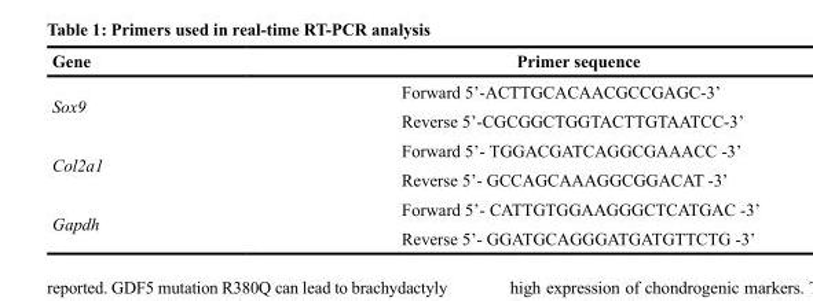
<table><thead><tr><td>Gene</td><td>Primer sequence</td></tr></thead><tbody><tr><td>Sox9</td><td>Forward 5’-ACTTGCACAACGCCGAGC-3’ Reverse 5’-CGCGGCTGGTACTTGTAATCC-3’</td></tr><tr><td>Col2a1</td><td>Forward 5’- TGGACGATCAGGCGAAACC -3’ Reverse 5’- GCCAGCAAAGGCGGACAT -3’</td></tr><tr><td>Gapdh</td><td>Forward 5’- CATTGTGGAAGGGCTCATGAC -3’ Reverse 5’- GGATGCAGGGATGATGTTCTG -3’</td></tr></tbody></table>